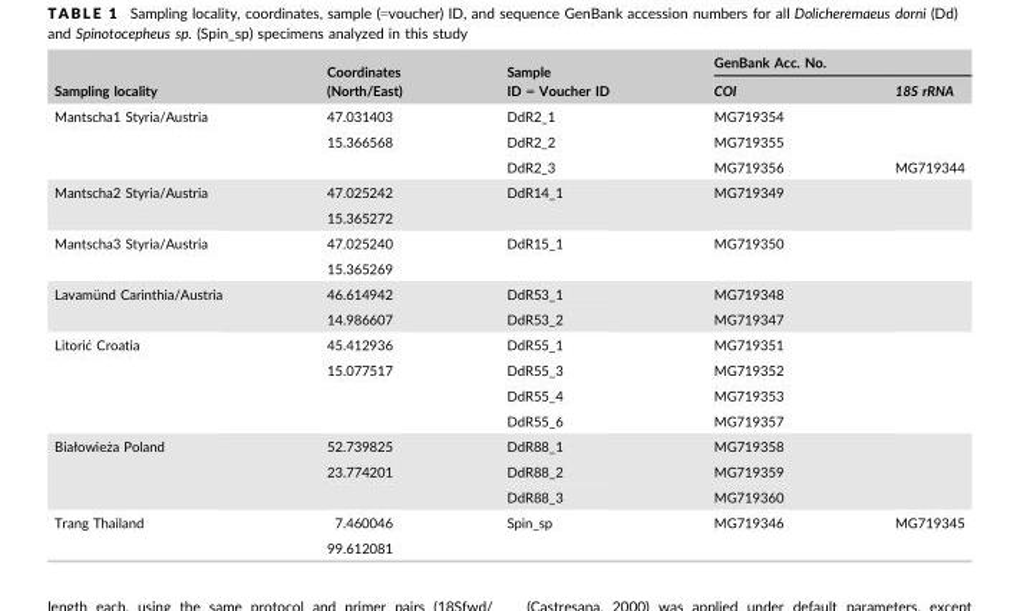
<table><thead><tr><td rowspan="2">Sampling locality</td><td rowspan="2">Coordinates (North/East)</td><td rowspan="2">Sample ID = Voucher ID</td><td colspan="2">GenBank Acc. No.</td></tr><tr><td>COI</td><td>18S rRNA</td></tr></thead><tbody><tr><td rowspan="3">Mantscha1 Styria/Austria</td><td>47.031403</td><td>DdR2_1</td><td>MG719354</td><td rowspan="2"></td></tr><tr><td>15.366568</td><td>DdR2_2</td><td>MG719355</td></tr><tr><td></td><td>DdR2_3</td><td>MG719356</td><td>MG719344</td></tr><tr><td rowspan="2">Mantscha2 Styria/Austria</td><td>47.025242</td><td rowspan="2">DdR14_1</td><td rowspan="2">MG719349</td><td rowspan="2"></td></tr><tr><td>15.365272</td></tr><tr><td rowspan="2">Mantscha3 Styria/Austria</td><td>47.025240</td><td rowspan="2">DdR15_1</td><td rowspan="2">MG719350</td><td rowspan="2"></td></tr><tr><td>15.365269</td></tr><tr><td rowspan="2">Lavam€und Carinthia/Austria</td><td>46.614942</td><td>DdR53_1</td><td>MG719348</td><td rowspan="2"></td></tr><tr><td>14.986607</td><td>DdR53_2</td><td>MG719347</td></tr><tr><td rowspan="4">Litori�c Croatia</td><td>45.412936</td><td>DdR55_1</td><td>MG719351</td><td rowspan="4"></td></tr><tr><td>15.077517</td><td>DdR55_3</td><td>MG719352</td></tr><tr><td></td><td>DdR55_4</td><td>MG719353</td></tr><tr><td></td><td>DdR55_6</td><td>MG719357</td></tr><tr><td rowspan="3">Białowie_za Poland</td><td>52.739825</td><td>DdR88_1</td><td>MG719358</td><td rowspan="3"></td></tr><tr><td>23.774201</td><td>DdR88_2</td><td>MG719359</td></tr><tr><td></td><td>DdR88_3</td><td>MG719360</td></tr><tr><td rowspan="2">Trang Thailand</td><td>7.460046</td><td rowspan="2">Spin_sp</td><td rowspan="2">MG719346</td><td rowspan="2">MG719345</td></tr><tr><td>99.612081</td></tr></tbody></table>